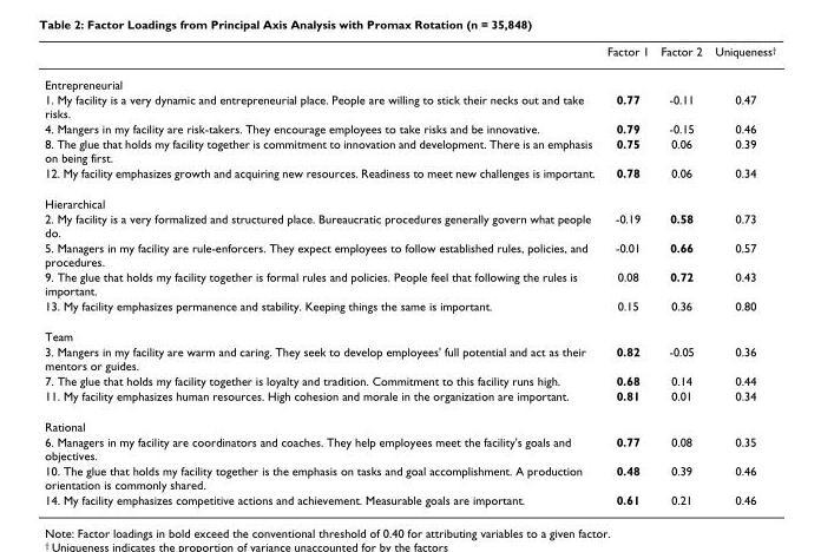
<table><thead><tr><td></td><td>Factor 1</td><td>Factor 2</td><td>Uniqueness<sup>†</sup></td></tr></thead><tbody><tr><td colspan="4">Entrepreneurial</td></tr><tr><td>1. My facility is a very dynamic and entrepreneurial place. People are willing to stick their necks out and take risks.</td><td>0.77</td><td>-0.11</td><td>0.47</td></tr><tr><td>4. Mangers in my facility are risk-takers. They encourage employees to take risks and be innovative.</td><td>0.79</td><td>-0.15</td><td>0.46</td></tr><tr><td>8. The glue that holds my facility together is commitment to innovation and development. There is an emphasis on being first.</td><td>0.75</td><td>0.06</td><td>0.39</td></tr><tr><td>12. My facility emphasizes growth and acquiring new resources. Readiness to meet new challenges is important.</td><td>0.78</td><td>0.06</td><td>0.34</td></tr><tr><td colspan="4">Hierarchical</td></tr><tr><td>2. My facility is a very formalized and structured place. Bureaucratic procedures generally govern what people do.</td><td>-0.19</td><td>0.58</td><td>0.73</td></tr><tr><td>5. Managers in my facility are rule-enforcers. They expect employees to follow established rules, policies, and procedures.</td><td>-0.01</td><td>0.66</td><td>0.57</td></tr><tr><td>9. The glue that holds my facility together is formal rules and policies. People feel that following the rules is important.</td><td>0.08</td><td>0.72</td><td>0.43</td></tr><tr><td>13. My facility emphasizes permanence and stability. Keeping things the same is important.</td><td>0.15</td><td>0.36</td><td>0.80</td></tr><tr><td colspan="4">Team</td></tr><tr><td>3. Mangers in my facility are warm and caring. They seek to develop employees&#x27; full potential and act as their mentors or guides.</td><td>0.82</td><td>-0.05</td><td>0.36</td></tr><tr><td>7. The glue that holds my facility together is loyalty and tradition. Commitment to this facility runs high.</td><td>0.68</td><td>0.14</td><td>0.44</td></tr><tr><td>11. My facility emphasizes human resources. High cohesion and morale in the organization are important.</td><td>0.81</td><td>0.01</td><td>0.34</td></tr><tr><td colspan="4">Rational</td></tr><tr><td>6. Managers in my facility are coordinators and coaches. They help employees meet the facility&#x27;s goals and objectives.</td><td>0.77</td><td>0.08</td><td>0.35</td></tr><tr><td>10. The glue that holds my facility together is the emphasis on tasks and goal accomplishment. A production orientation is commonly shared.</td><td>0.48</td><td>0.39</td><td>0.46</td></tr><tr><td>14. My facility emphasizes competitive actions and achievement. Measurable goals are important.</td><td>0.61</td><td>0.21</td><td>0.46</td></tr></tbody></table>